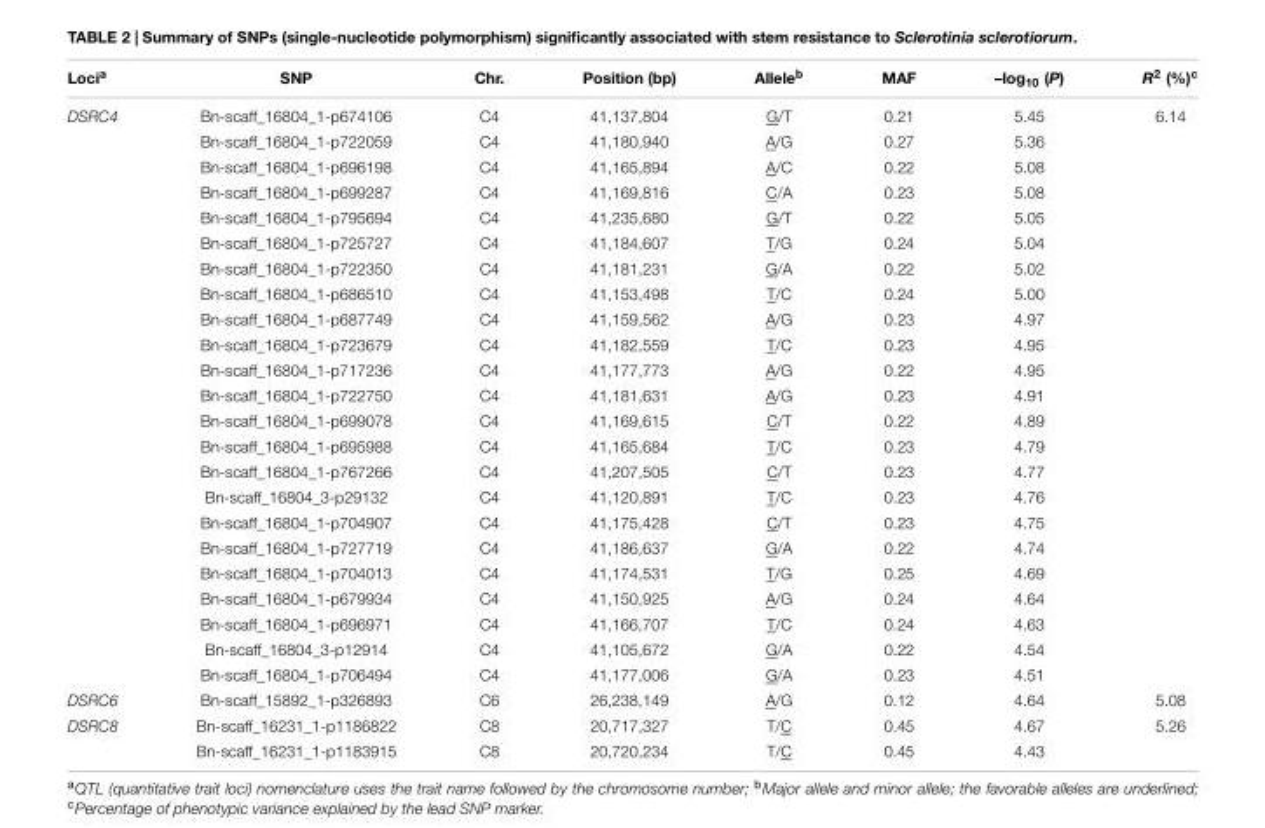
<table><thead><tr><td>Loci<sup>a</sup></td><td>SNP</td><td>Chr.</td><td>Position (bp)</td><td>Allele<sup>b</sup></td><td>MAF</td><td>–log<sub>10</sub> (P)</td><td>R<sup>2</sup> (%)<sup>c</sup></td></tr></thead><tbody><tr><td rowspan="23">DSRC4</td><td>Bn-scaff_16804_1-p674106</td><td>C4</td><td>41,137,804</td><td>G/T</td><td>0.21</td><td>5.45</td><td>6.14</td></tr><tr><td>Bn-scaff_16804_1-p722059</td><td>C4</td><td>41,180,940</td><td>A/G</td><td>0.27</td><td>5.36</td><td></td></tr><tr><td>Bn-scaff_16804_1-p696198</td><td>C4</td><td>41,165,894</td><td>A/C</td><td>0.22</td><td>5.08</td><td></td></tr><tr><td>Bn-scaff_16804_1-p699287</td><td>C4</td><td>41,169,816</td><td>C/A</td><td>0.23</td><td>5.08</td><td></td></tr><tr><td>Bn-scaff_16804_1-p795694</td><td>C4</td><td>41,235,680</td><td>G/T</td><td>0.22</td><td>5.05</td><td></td></tr><tr><td>Bn-scaff_16804_1-p725727</td><td>C4</td><td>41,184,607</td><td>T/G</td><td>0.24</td><td>5.04</td><td></td></tr><tr><td>Bn-scaff_16804_1-p722350</td><td>C4</td><td>41,181,231</td><td>G/A</td><td>0.22</td><td>5.02</td><td></td></tr><tr><td>Bn-scaff_16804_1-p686510</td><td>C4</td><td>41,153,498</td><td>T/C</td><td>0.24</td><td>5.00</td><td></td></tr><tr><td>Bn-scaff_16804_1-p687749</td><td>C4</td><td>41,159,562</td><td>A/G</td><td>0.23</td><td>4.97</td><td></td></tr><tr><td>Bn-scaff_16804_1-p723679</td><td>C4</td><td>41,182,559</td><td>T/C</td><td>0.23</td><td>4.95</td><td></td></tr><tr><td>Bn-scaff_16804_1-p717236</td><td>C4</td><td>41,177,773</td><td>A/G</td><td>0.22</td><td>4.95</td><td></td></tr><tr><td>Bn-scaff_16804_1-p722750</td><td>C4</td><td>41,181,631</td><td>A/G</td><td>0.23</td><td>4.91</td><td></td></tr><tr><td>Bn-scaff_16804_1-p699078</td><td>C4</td><td>41,169,615</td><td>C/T</td><td>0.22</td><td>4.89</td><td></td></tr><tr><td>Bn-scaff_16804_1-p695988</td><td>C4</td><td>41,165,684</td><td>T/C</td><td>0.23</td><td>4.79</td><td></td></tr><tr><td>Bn-scaff_16804_1-p767266</td><td>C4</td><td>41,207,505</td><td>C/T</td><td>0.23</td><td>4.77</td><td></td></tr><tr><td>Bn-scaff_16804_3-p29132</td><td>C4</td><td>41,120,891</td><td>T/C</td><td>0.23</td><td>4.76</td><td></td></tr><tr><td>Bn-scaff_16804_1-p704907</td><td>C4</td><td>41,175,428</td><td>C/T</td><td>0.23</td><td>4.75</td><td></td></tr><tr><td>Bn-scaff_16804_1-p727719</td><td>C4</td><td>41,186,637</td><td>G/A</td><td>0.22</td><td>4.74</td><td></td></tr><tr><td>Bn-scaff_16804_1-p704013</td><td>C4</td><td>41,174,531</td><td>T/G</td><td>0.25</td><td>4.69</td><td></td></tr><tr><td>Bn-scaff_16804_1-p679934</td><td>C4</td><td>41,150,925</td><td>A/G</td><td>0.24</td><td>4.64</td><td></td></tr><tr><td>Bn-scaff_16804_1-p696971</td><td>C4</td><td>41,166,707</td><td>T/C</td><td>0.24</td><td>4.63</td><td></td></tr><tr><td>Bn-scaff_16804_3-p12914</td><td>C4</td><td>41,105,672</td><td>G/A</td><td>0.22</td><td>4.54</td><td></td></tr><tr><td>Bn-scaff_16804_1-p706494</td><td>C4</td><td>41,177,006</td><td>G/A</td><td>0.23</td><td>4.51</td><td></td></tr><tr><td>DSRC6</td><td>Bn-scaff_15892_1-p326893</td><td>C6</td><td>26,238,149</td><td>A/G</td><td>0.12</td><td>4.64</td><td>5.08</td></tr><tr><td rowspan="2">DSRC8</td><td>Bn-scaff_16231_1-p1186822</td><td>C8</td><td>20,717,327</td><td>T/C</td><td>0.45</td><td>4.67</td><td>5.26</td></tr><tr><td>Bn-scaff_16231_1-p1183915</td><td>C8</td><td>20,720,234</td><td>T/C</td><td>0.45</td><td>4.43</td><td></td></tr></tbody></table>